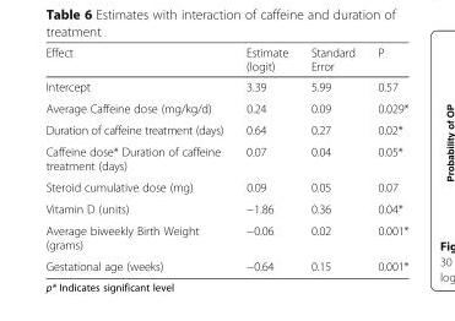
<table><thead><tr><td>Effect</td><td>Estimate (logit)</td><td>Standard Error</td><td>P</td></tr></thead><tbody><tr><td>Intercept</td><td>3.39</td><td>5.99</td><td>0.57</td></tr><tr><td>Average Caffeine dose (mg/kg/d)</td><td>0.24</td><td>0.09</td><td>0.029*</td></tr><tr><td>Duration of caffeine treatment (days)</td><td>0.64</td><td>0.27</td><td>0.02*</td></tr><tr><td>Caffeine dose* Duration of caffeine treatment (days)</td><td>0.07</td><td>0.04</td><td>0.05*</td></tr><tr><td>Steroid cumulative dose (mg)</td><td>0.09</td><td>0.05</td><td>0.07</td></tr><tr><td>Vitamin D (units)</td><td>−1.86</td><td>0.36</td><td>0.04*</td></tr><tr><td>Average biweekly Birth Weight (grams)</td><td>−0.06</td><td>0.02</td><td>0.001*</td></tr><tr><td>Gestational age (weeks)</td><td>−0.64</td><td>0.15</td><td>0.001*</td></tr></tbody></table>